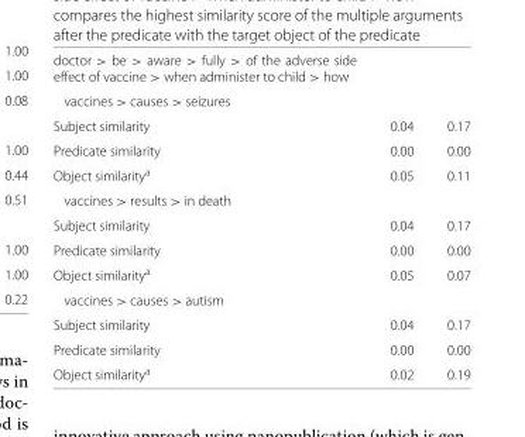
<table><tbody><tr><td colspan="3">doctor &gt; be &gt; aware &gt; fully &gt; of the adverse side effect of vaccine &gt; when administer to child &gt; how</td></tr><tr><td colspan="3">vaccines &gt; causes &gt; seizures</td></tr><tr><td>Subject similarity</td><td>0.04</td><td>0.17</td></tr><tr><td>Predicate similarity</td><td>0.00</td><td>0.00</td></tr><tr><td>Object similarity<sup>a</sup></td><td>0.05</td><td>0.11</td></tr><tr><td colspan="3">vaccines &gt; results &gt; in death</td></tr><tr><td>Subject similarity</td><td>0.04</td><td>0.17</td></tr><tr><td>Predicate similarity</td><td>0.00</td><td>0.00</td></tr><tr><td>Object similarity<sup>a</sup></td><td>0.05</td><td>0.07</td></tr><tr><td colspan="3">vaccines &gt; causes &gt; autism</td></tr><tr><td>Subject similarity</td><td>0.04</td><td>0.17</td></tr><tr><td>Predicate similarity</td><td>0.00</td><td>0.00</td></tr><tr><td>Object similarity<sup>a</sup></td><td>0.02</td><td>0.19</td></tr></tbody></table>